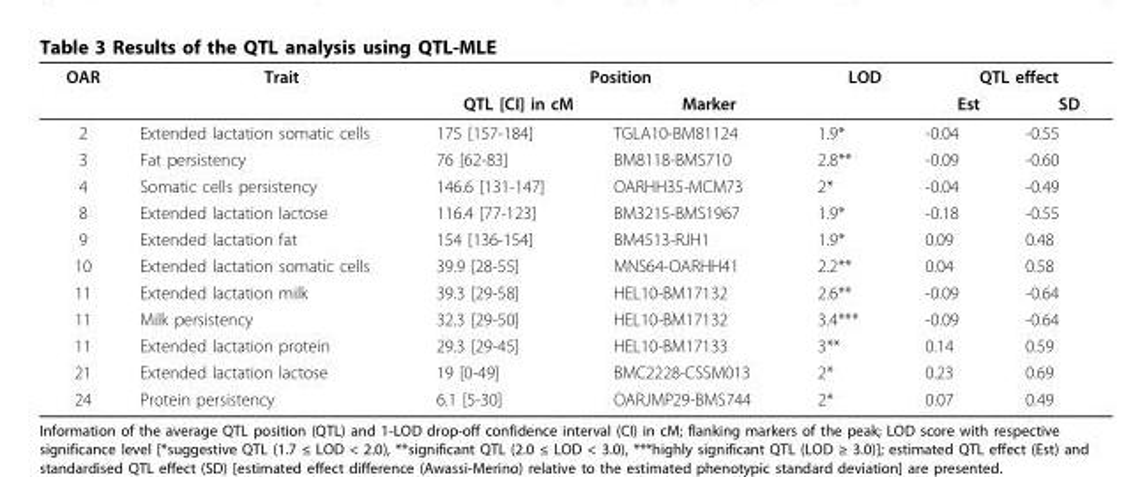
<table><thead><tr><td rowspan="2">OAR</td><td rowspan="2">Trait</td><td colspan="2">Position</td><td rowspan="2">LOD</td><td colspan="2">QTL effect</td></tr><tr><td>QTL [CI] in cM</td><td>Marker</td><td>Est</td><td>SD</td></tr></thead><tbody><tr><td>2</td><td>Extended lactation somatic cells</td><td>175 [157-184]</td><td>TGLA10-BM81124</td><td>1.9*</td><td>-0.04</td><td>-0.55</td></tr><tr><td>3</td><td>Fat persistency</td><td>76 [62-83]</td><td>BM8118-BMS710</td><td>2.8**</td><td>-0.09</td><td>-0.60</td></tr><tr><td>4</td><td>Somatic cells persistency</td><td>146.6 [131-147]</td><td>OARHH35-MCM73</td><td>2*</td><td>-0.04</td><td>-0.49</td></tr><tr><td>8</td><td>Extended lactation lactose</td><td>116.4 [77-123]</td><td>BM3215-BMS1967</td><td>1.9*</td><td>-0.18</td><td>-0.55</td></tr><tr><td>9</td><td>Extended lactation fat</td><td>154 [136-154]</td><td>BM4513-RJH1</td><td>1.9*</td><td>0.09</td><td>0.48</td></tr><tr><td>10</td><td>Extended lactation somatic cells</td><td>39.9 [28-55]</td><td>MNS64-OARHH41</td><td>2.2**</td><td>0.04</td><td>0.58</td></tr><tr><td>11</td><td>Extended lactation milk</td><td>39.3 [29-58]</td><td>HEL10-BM17132</td><td>2.6**</td><td>-0.09</td><td>-0.64</td></tr><tr><td>11</td><td>Milk persistency</td><td>32.3 [29-50]</td><td>HEL10-BM17132</td><td>3.4***</td><td>-0.09</td><td>-0.64</td></tr><tr><td>11</td><td>Extended lactation protein</td><td>29.3 [29-45]</td><td>HEL10-BM17133</td><td>3**</td><td>0.14</td><td>0.59</td></tr><tr><td>21</td><td>Extended lactation lactose</td><td>19 [0-49]</td><td>BMC2228-CSSM013</td><td>2*</td><td>0.23</td><td>0.69</td></tr><tr><td>24</td><td>Protein persistency</td><td>6.1 [5-30]</td><td>OARJMP29-BMS744</td><td>2*</td><td>0.07</td><td>0.49</td></tr></tbody></table>